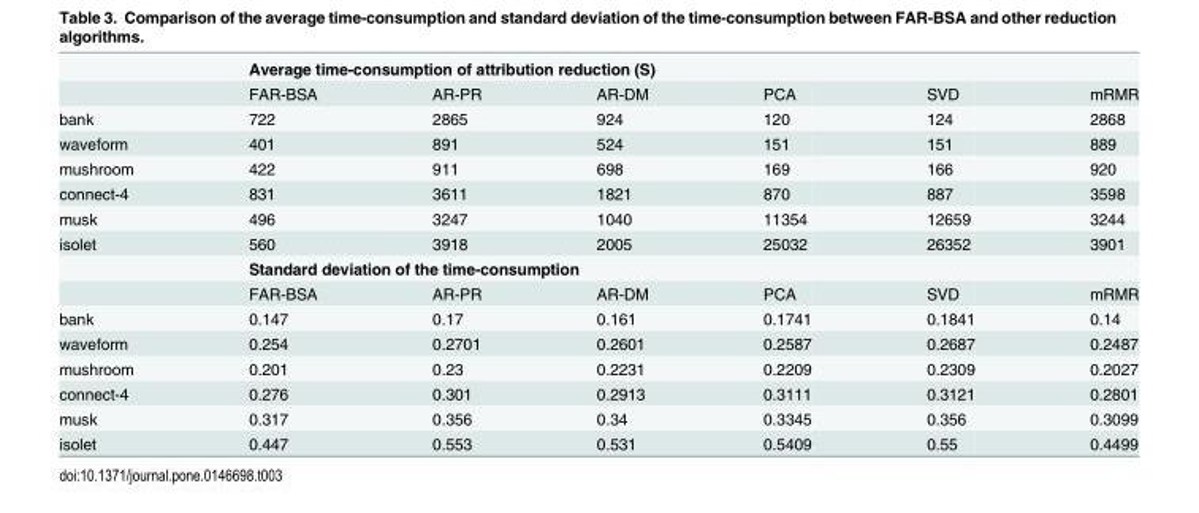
<table><thead><tr><td rowspan="2"></td><td colspan="6">Average time-consumption of attribution reduction (S)</td></tr><tr><td>FAR-BSA</td><td>AR-PR</td><td>AR-DM</td><td>PCA</td><td>SVD</td><td>mRMR</td></tr></thead><tbody><tr><td>bank</td><td>722</td><td>2865</td><td>924</td><td>120</td><td>124</td><td>2868</td></tr><tr><td>waveform</td><td>401</td><td>891</td><td>524</td><td>151</td><td>151</td><td>889</td></tr><tr><td>mushroom</td><td>422</td><td>911</td><td>698</td><td>169</td><td>166</td><td>920</td></tr><tr><td>connect-4</td><td>831</td><td>3611</td><td>1821</td><td>870</td><td>887</td><td>3598</td></tr><tr><td>musk</td><td>496</td><td>3247</td><td>1040</td><td>11354</td><td>12659</td><td>3244</td></tr><tr><td rowspan="3">isolet</td><td>560</td><td>3918</td><td>2005</td><td>25032</td><td>26352</td><td>3901</td></tr><tr><td colspan="6">Standard deviation of the time-consumption</td></tr><tr><td>FAR-BSA</td><td>AR-PR</td><td>AR-DM</td><td>PCA</td><td>SVD</td><td>mRMR</td></tr><tr><td>bank</td><td>0.147</td><td>0.17</td><td>0.161</td><td>0.1741</td><td>0.1841</td><td>0.14</td></tr><tr><td>waveform</td><td>0.254</td><td>0.2701</td><td>0.2601</td><td>0.2587</td><td>0.2687</td><td>0.2487</td></tr><tr><td>mushroom</td><td>0.201</td><td>0.23</td><td>0.2231</td><td>0.2209</td><td>0.2309</td><td>0.2027</td></tr><tr><td>connect-4</td><td>0.276</td><td>0.301</td><td>0.2913</td><td>0.3111</td><td>0.3121</td><td>0.2801</td></tr><tr><td>musk</td><td>0.317</td><td>0.356</td><td>0.34</td><td>0.3345</td><td>0.356</td><td>0.3099</td></tr><tr><td>isolet</td><td>0.447</td><td>0.553</td><td>0.531</td><td>0.5409</td><td>0.55</td><td>0.4499</td></tr></tbody></table>